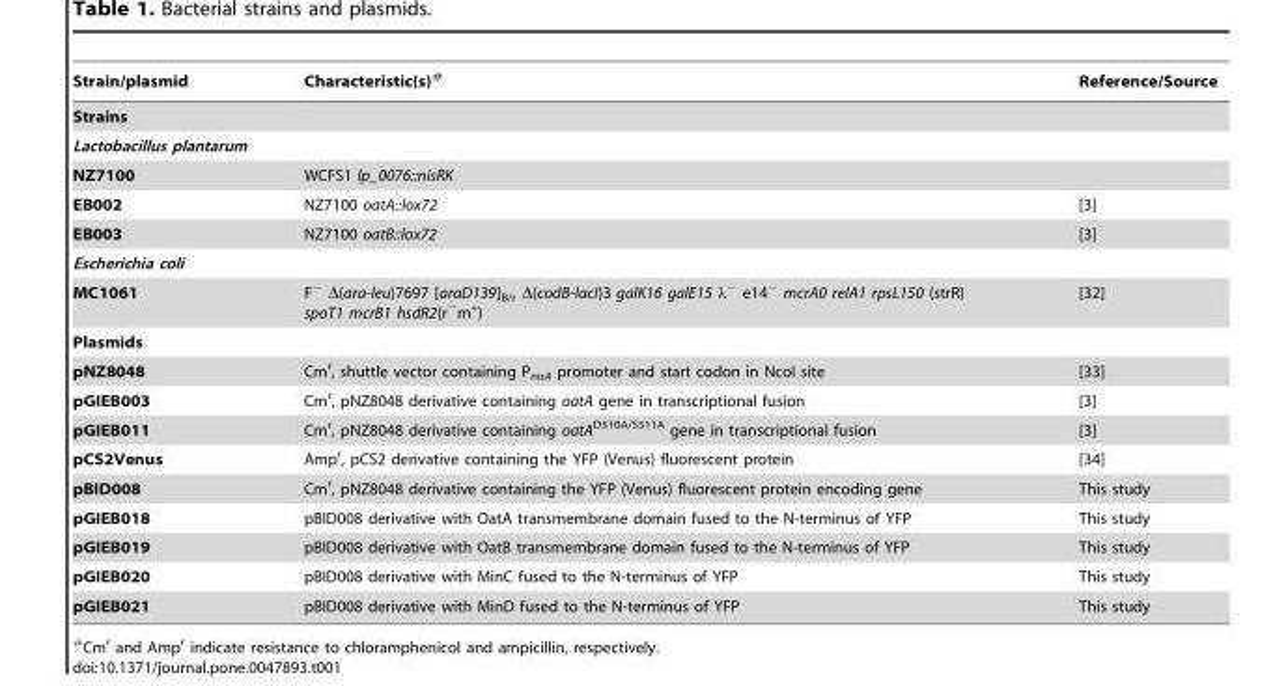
<table><thead><tr><td>Strain/plasmid</td><td>Characteristic(s)#</td><td>Reference/Source</td></tr></thead><tbody><tr><td colspan="3">Strains</td></tr><tr><td colspan="3">Lactobacillus plantarum</td></tr><tr><td>NZ7100</td><td>WCFS1 lp_0076::nisRK</td><td></td></tr><tr><td>EB002</td><td>NZ7100 oatA::lox72</td><td>[3]</td></tr><tr><td>EB003</td><td>NZ7100 oatB::lox72</td><td>[3]</td></tr><tr><td colspan="3">Escherichia coli</td></tr><tr><td>MC1061</td><td>F<sup>−</sup> Δ(ara-leu)7697 [araD139]<sub>B/r</sub> Δ(codB-lacI)3 galK16 galE15 λ<sup>−</sup> e14<sup>−</sup> mcrA0 relA1 rpsL150 (strR) spoT1 mcrB1 hsdR2(r<sup>−</sup>m<sup>+</sup>)</td><td>[32]</td></tr><tr><td colspan="3">Plasmids</td></tr><tr><td>pNZ8048</td><td>Cm<sup>r</sup>, shuttle vector containing P<sub>nisA</sub> promoter and start codon in NcoI site</td><td>[33]</td></tr><tr><td>pGIEB003</td><td>Cm<sup>r</sup>, pNZ8048 derivative containing oatA gene in transcriptional fusion</td><td>[3]</td></tr><tr><td>pGIEB011</td><td>Cm<sup>r</sup>, pNZ8048 derivative containing oatA<sup>D510A/S511A</sup> gene in transcriptional fusion</td><td>[3]</td></tr><tr><td>pCS2Venus</td><td>Amp<sup>r</sup>, pCS2 derivative containing the YFP (Venus) fluorescent protein</td><td>[34]</td></tr><tr><td>pBID008</td><td>Cm<sup>r</sup>, pNZ8048 derivative containing the YFP (Venus) fluorescent protein encoding gene</td><td>This study</td></tr><tr><td>pGIEB018</td><td>pBID008 derivative with OatA transmembrane domain fused to the N-terminus of YFP</td><td>This study</td></tr><tr><td>pGIEB019</td><td>pBID008 derivative with OatB transmembrane domain fused to the N-terminus of YFP</td><td>This study</td></tr><tr><td>pGIEB020</td><td>pBID008 derivative with MinC fused to the N-terminus of YFP</td><td>This study</td></tr><tr><td>pGIEB021</td><td>pBID008 derivative with MinD fused to the N-terminus of YFP</td><td>This study</td></tr></tbody></table>